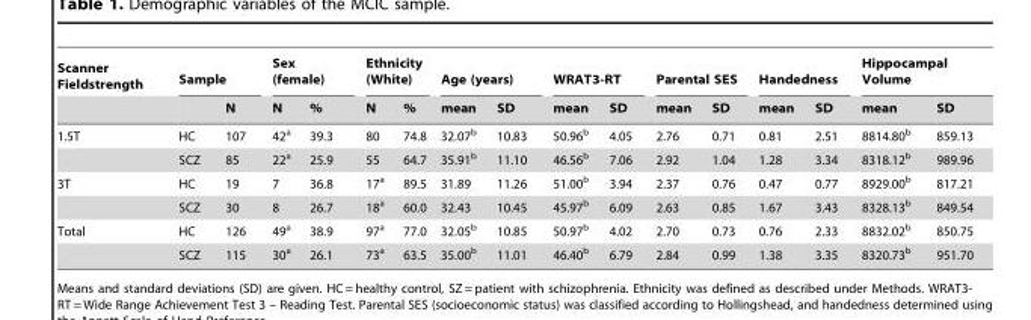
<table><thead><tr><td rowspan="2">Scanner Fieldstrength</td><td colspan="2">Sample</td><td colspan="2">Sex (female)</td><td colspan="2">Ethnicity (White)</td><td colspan="2">Age (years)</td><td colspan="2">WRAT3-RT</td><td colspan="2">Parental SES</td><td colspan="2">Handedness</td><td colspan="2">Hippocampal Volume</td></tr><tr><td></td><td>N</td><td>N</td><td>%</td><td>N</td><td>%</td><td>mean</td><td>SD</td><td>mean</td><td>SD</td><td>mean</td><td>SD</td><td>mean</td><td>SD</td><td>mean</td><td>SD</td></tr></thead><tbody><tr><td rowspan="2">1.5T</td><td>HC</td><td>107</td><td>42<sup>a</sup></td><td>39.3</td><td>80</td><td>74.8</td><td>32.07<sup>b</sup></td><td>10.83</td><td>50.96<sup>b</sup></td><td>4.05</td><td>2.76</td><td>0.71</td><td>0.81</td><td>2.51</td><td>8814.80<sup>b</sup></td><td>859.13</td></tr><tr><td>SCZ</td><td>85</td><td>22<sup>a</sup></td><td>25.9</td><td>55</td><td>64.7</td><td>35.91<sup>b</sup></td><td>11.10</td><td>46.56<sup>b</sup></td><td>7.06</td><td>2.92</td><td>1.04</td><td>1.28</td><td>3.34</td><td>8318.12<sup>b</sup></td><td>989.96</td></tr><tr><td rowspan="2">3T</td><td>HC</td><td>19</td><td>7</td><td>36.8</td><td>17<sup>a</sup></td><td>89.5</td><td>31.89</td><td>11.26</td><td>51.00<sup>b</sup></td><td>3.94</td><td>2.37</td><td>0.76</td><td>0.47</td><td>0.77</td><td>8929.00<sup>b</sup></td><td>817.21</td></tr><tr><td>SCZ</td><td>30</td><td>8</td><td>26.7</td><td>18<sup>a</sup></td><td>60.0</td><td>32.43</td><td>10.45</td><td>45.97<sup>b</sup></td><td>6.09</td><td>2.63</td><td>0.85</td><td>1.67</td><td>3.43</td><td>8328.13<sup>b</sup></td><td>849.54</td></tr><tr><td rowspan="2">Total</td><td>HC</td><td>126</td><td>49<sup>a</sup></td><td>38.9</td><td>97<sup>a</sup></td><td>77.0</td><td>32.05<sup>b</sup></td><td>10.85</td><td>50.97<sup>b</sup></td><td>4.02</td><td>2.70</td><td>0.73</td><td>0.76</td><td>2.33</td><td>8832.02<sup>b</sup></td><td>850.75</td></tr><tr><td>SCZ</td><td>115</td><td>30<sup>a</sup></td><td>26.1</td><td>73<sup>a</sup></td><td>63.5</td><td>35.00<sup>b</sup></td><td>11.01</td><td>46.40<sup>b</sup></td><td>6.79</td><td>2.84</td><td>0.99</td><td>1.38</td><td>3.35</td><td>8320.73<sup>b</sup></td><td>951.70</td></tr></tbody></table>